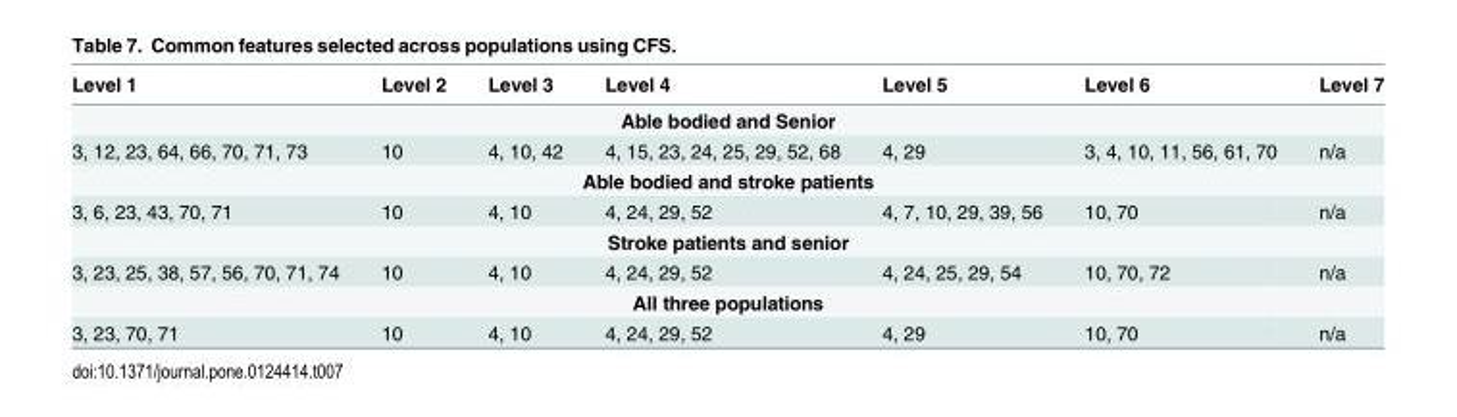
<table><thead><tr><td>Level 1</td><td>Level 2</td><td>Level 3</td><td>Level 4</td><td>Level 5</td><td>Level 6</td><td>Level 7</td></tr></thead><tbody><tr><td colspan="7">Able bodied and Senior</td></tr><tr><td>3, 12, 23, 64, 66, 70, 71, 73</td><td>10</td><td>4, 10, 42</td><td>4, 15, 23, 24, 25, 29, 52, 68</td><td>4, 29</td><td>3, 4, 10, 11, 56, 61, 70</td><td>n/a</td></tr><tr><td colspan="7">Able bodied and stroke patients</td></tr><tr><td>3, 6, 23, 43, 70, 71</td><td>10</td><td>4, 10</td><td>4, 24, 29, 52</td><td>4, 7, 10, 29, 39, 56</td><td>10, 70</td><td>n/a</td></tr><tr><td colspan="7">Stroke patients and senior</td></tr><tr><td>3, 23, 25, 38, 57, 56, 70, 71, 74</td><td>10</td><td>4, 10</td><td>4, 24, 29, 52</td><td>4, 24, 25, 29, 54</td><td>10, 70, 72</td><td>n/a</td></tr><tr><td colspan="7">All three populations</td></tr><tr><td>3, 23, 70, 71</td><td>10</td><td>4, 10</td><td>4, 24, 29, 52</td><td>4, 29</td><td>10, 70</td><td>n/a</td></tr></tbody></table>